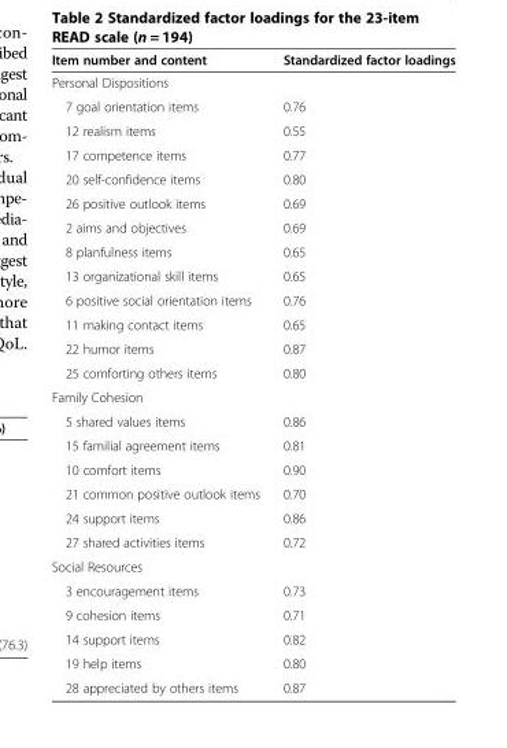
<table><thead><tr><td>Item number and content</td><td>Standardized factor loadings</td></tr></thead><tbody><tr><td colspan="2">Personal Dispositions</td></tr><tr><td>7 goal orientation items</td><td>0.76</td></tr><tr><td>12 realism items</td><td>0.55</td></tr><tr><td>17 competence items</td><td>0.77</td></tr><tr><td>20 self-confidence items</td><td>0.80</td></tr><tr><td>26 positive outlook items</td><td>0.69</td></tr><tr><td>2 aims and objectives</td><td>0.69</td></tr><tr><td>8 planfulness items</td><td>0.65</td></tr><tr><td>13 organizational skill items</td><td>0.65</td></tr><tr><td>6 positive social orientation items</td><td>0.76</td></tr><tr><td>11 making contact items</td><td>0.65</td></tr><tr><td>22 humor items</td><td>0.87</td></tr><tr><td>25 comforting others items</td><td>0.80</td></tr><tr><td colspan="2">Family Cohesion</td></tr><tr><td>5 shared values items</td><td>0.86</td></tr><tr><td>15 familial agreement items</td><td>0.81</td></tr><tr><td>10 comfort items</td><td>0.90</td></tr><tr><td>21 common positive outlook items</td><td>0.70</td></tr><tr><td>24 support items</td><td>0.86</td></tr><tr><td>27 shared activities items</td><td>0.72</td></tr><tr><td colspan="2">Social Resources</td></tr><tr><td>3 encouragement items</td><td>0.73</td></tr><tr><td>9 cohesion items</td><td>0.71</td></tr><tr><td>14 support items</td><td>0.82</td></tr><tr><td>19 help items</td><td>0.80</td></tr><tr><td>28 appreciated by others items</td><td>0.87</td></tr></tbody></table>